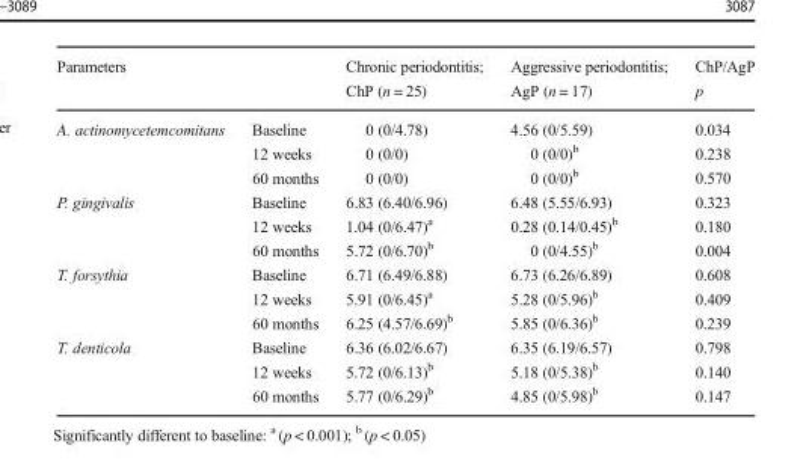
<table><thead><tr><td>Parameters</td><td></td><td>Chronic periodontitis; ChP (n = 25)</td><td>Aggressive periodontitis; AgP (n = 17)</td><td>ChP/AgP p</td></tr></thead><tbody><tr><td rowspan="3">A. actinomycetemcomitans</td><td>Baseline</td><td>0 (0/4.78)</td><td>4.56 (0/5.59)</td><td>0.034</td></tr><tr><td>12 weeks</td><td>0 (0/0)</td><td>0 (0/0)<sup>b</sup></td><td>0.238</td></tr><tr><td>60 months</td><td>0 (0/0)</td><td>0 (0/0)<sup>b</sup></td><td>0.570</td></tr><tr><td rowspan="3">P. gingivalis</td><td>Baseline</td><td>6.83 (6.40/6.96)</td><td>6.48 (5.55/6.93)</td><td>0.323</td></tr><tr><td>12 weeks</td><td>1.04 (0/6.47)<sup>a</sup></td><td>0.28 (0.14/0.45)<sup>b</sup></td><td>0.180</td></tr><tr><td>60 months</td><td>5.72 (0/6.70)<sup>b</sup></td><td>0 (0/4.55)<sup>b</sup></td><td>0.004</td></tr><tr><td rowspan="3">T. forsythia</td><td>Baseline</td><td>6.71 (6.49/6.88)</td><td>6.73 (6.26/6.89)</td><td>0.608</td></tr><tr><td>12 weeks</td><td>5.91 (0/6.45)<sup>a</sup></td><td>5.28 (0/5.96)<sup>b</sup></td><td>0.409</td></tr><tr><td>60 months</td><td>6.25 (4.57/6.69)<sup>b</sup></td><td>5.85 (0/6.36)<sup>b</sup></td><td>0.239</td></tr><tr><td rowspan="3">T. denticola</td><td>Baseline</td><td>6.36 (6.02/6.67)</td><td>6.35 (6.19/6.57)</td><td>0.798</td></tr><tr><td>12 weeks</td><td>5.72 (0/6.13)<sup>b</sup></td><td>5.18 (0/5.38)<sup>b</sup></td><td>0.140</td></tr><tr><td>60 months</td><td>5.77 (0/6.29)<sup>b</sup></td><td>4.85 (0/5.98)<sup>b</sup></td><td>0.147</td></tr></tbody></table>